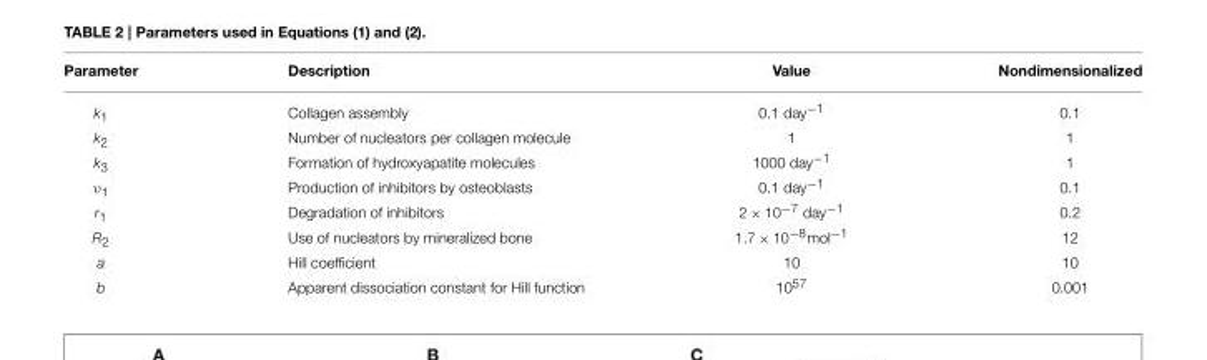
<table><thead><tr><td>Parameter</td><td>Description</td><td>Value</td><td>Nondimensionalized</td></tr></thead><tbody><tr><td>k<sub>1</sub></td><td>Collagen assembly</td><td>0.1 day<sup>−1</sup></td><td>0.1</td></tr><tr><td>k<sub>2</sub></td><td>Number of nucleators per collagen molecule</td><td>1</td><td>1</td></tr><tr><td>k<sub>3</sub></td><td>Formation of hydroxyapatite molecules</td><td>1000 day<sup>−1</sup></td><td>1</td></tr><tr><td>υ<sub>1</sub></td><td>Production of inhibitors by osteoblasts</td><td>0.1 day<sup>−1</sup></td><td>0.1</td></tr><tr><td>r<sub>1</sub></td><td>Degradation of inhibitors</td><td>2 × 10<sup>−7</sup> day<sup>−1</sup></td><td>0.2</td></tr><tr><td>R<sub>2</sub></td><td>Use of nucleators by mineralized bone</td><td>1.7 × 10<sup>−8</sup>mol<sup>−1</sup></td><td>12</td></tr><tr><td>a</td><td>Hill coefficient</td><td>10</td><td>10</td></tr><tr><td>b</td><td>Apparent dissociation constant for Hill function</td><td>10<sup>57</sup></td><td>0.001</td></tr></tbody></table>